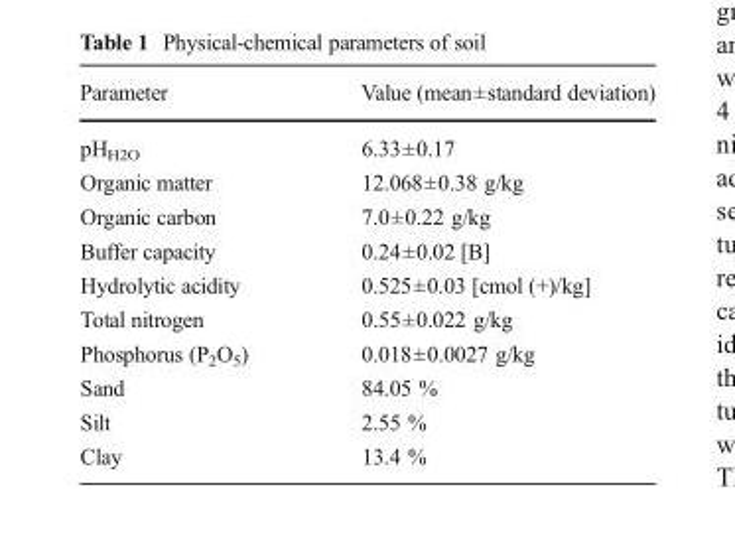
<table><thead><tr><td>Parameter</td><td>Value (mean±standard deviation)</td></tr></thead><tbody><tr><td>pH<sub>H2O</sub></td><td>6.33±0.17</td></tr><tr><td>Organic matter</td><td>12.068±0.38 g/kg</td></tr><tr><td>Organic carbon</td><td>7.0±0.22 g/kg</td></tr><tr><td>Buffer capacity</td><td>0.24±0.02 [B]</td></tr><tr><td>Hydrolytic acidity</td><td>0.525±0.03 [cmol (+)/kg]</td></tr><tr><td>Total nitrogen</td><td>0.55±0.022 g/kg</td></tr><tr><td>Phosphorus (P<sub>2</sub>O<sub>5</sub>)</td><td>0.018±0.0027 g/kg</td></tr><tr><td>Sand</td><td>84.05 %</td></tr><tr><td>Silt</td><td>2.55 %</td></tr><tr><td>Clay</td><td>13.4 %</td></tr></tbody></table>